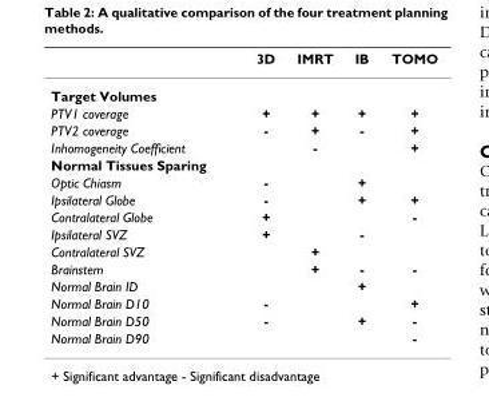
<table><thead><tr><td></td><td>3D</td><td>IMRT</td><td>IB</td><td>TOMO</td></tr></thead><tbody><tr><td colspan="5">Target Volumes</td></tr><tr><td>PTV1 coverage</td><td>+</td><td>+</td><td>+</td><td>+</td></tr><tr><td>PTV2 coverage</td><td>-</td><td>+</td><td>-</td><td>+</td></tr><tr><td>Inhomogeneity Coefficient</td><td></td><td>-</td><td></td><td>+</td></tr><tr><td colspan="5">Normal Tissues Sparing</td></tr><tr><td>Optic Chiasm</td><td>-</td><td></td><td>+</td><td></td></tr><tr><td>Ipsilateral Globe</td><td>-</td><td></td><td>+</td><td>+</td></tr><tr><td>Contralateral Globe</td><td>+</td><td></td><td></td><td>-</td></tr><tr><td>Ipsilateral SVZ</td><td>+</td><td></td><td>-</td><td></td></tr><tr><td>Contralateral SVZ</td><td></td><td>+</td><td></td><td></td></tr><tr><td>Brainstem</td><td></td><td>+</td><td>-</td><td>-</td></tr><tr><td>Normal Brain ID</td><td></td><td></td><td>+</td><td></td></tr><tr><td>Normal Brain D10</td><td>-</td><td></td><td></td><td>+</td></tr><tr><td>Normal Brain D50</td><td>-</td><td></td><td>+</td><td>-</td></tr><tr><td>Normal Brain D90</td><td></td><td></td><td></td><td>-</td></tr></tbody></table>